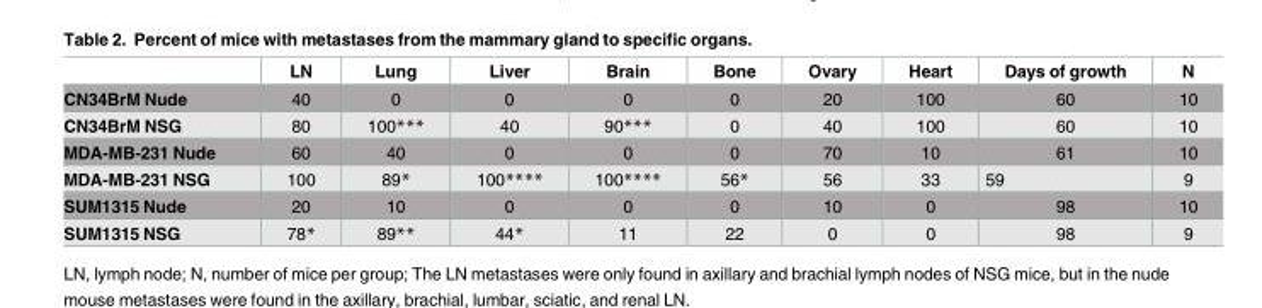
<table><thead><tr><td></td><td>LN</td><td>Lung</td><td>Liver</td><td>Brain</td><td>Bone</td><td>Ovary</td><td>Heart</td><td>Days of growth</td><td>N</td></tr></thead><tbody><tr><td>CN34BrM Nude</td><td>40</td><td>0</td><td>0</td><td>0</td><td>0</td><td>20</td><td>100</td><td>60</td><td>10</td></tr><tr><td>CN34BrM NSG</td><td>80</td><td>100***</td><td>40</td><td>90***</td><td>0</td><td>40</td><td>100</td><td>60</td><td>10</td></tr><tr><td>MDA-MB-231 Nude</td><td>60</td><td>40</td><td>0</td><td>0</td><td>0</td><td>70</td><td>10</td><td>61</td><td>10</td></tr><tr><td>MDA-MB-231 NSG</td><td>100</td><td>89*</td><td>100****</td><td>100****</td><td>56*</td><td>56</td><td>33</td><td>59</td><td>9</td></tr><tr><td>SUM1315 Nude</td><td>20</td><td>10</td><td>0</td><td>0</td><td>0</td><td>10</td><td>0</td><td>98</td><td>10</td></tr><tr><td>SUM1315 NSG</td><td>78*</td><td>89**</td><td>44*</td><td>11</td><td>22</td><td>0</td><td>0</td><td>98</td><td>9</td></tr></tbody></table>